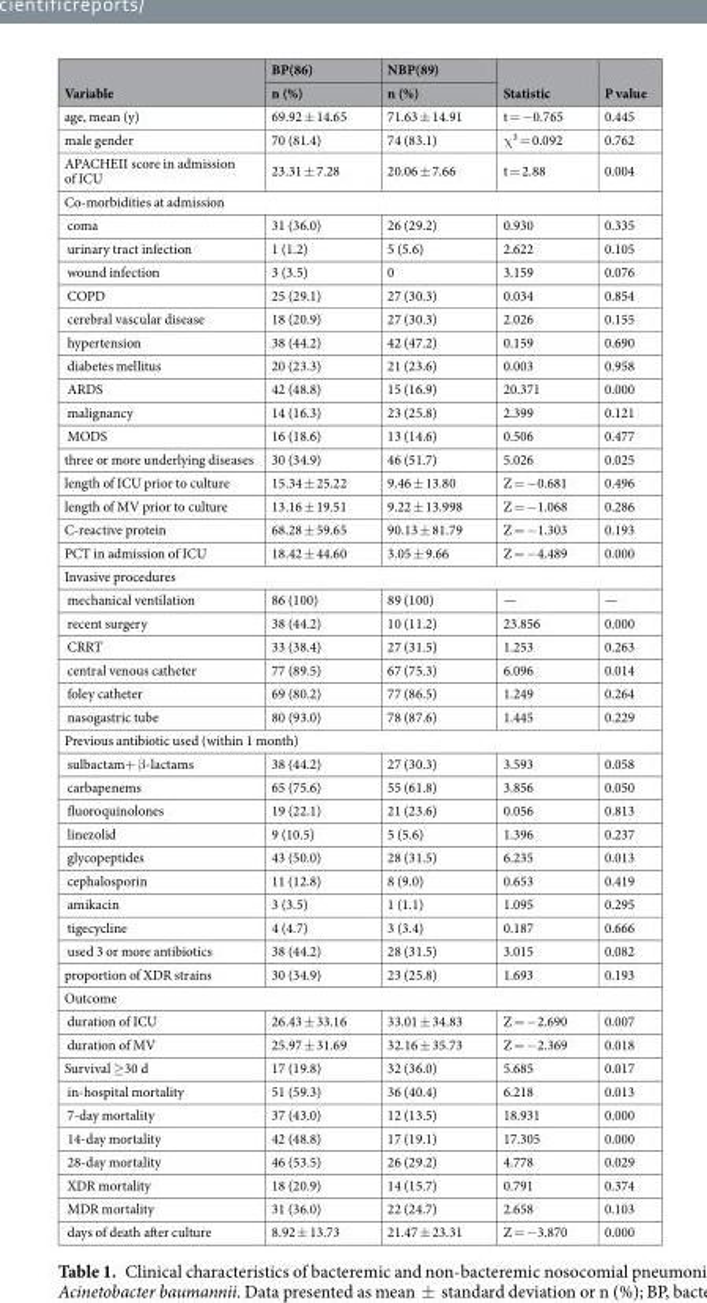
<table><thead><tr><td rowspan="2">Variable</td><td rowspan="2">BP(86) n (%)</td><td rowspan="2">NBP(89) n (%)</td><td rowspan="2">Statistic</td><td rowspan="2">P value</td></tr><tr></tr></thead><tbody><tr><td>age, mean (y)</td><td>69.92 ± 14.65</td><td>71.63 ± 14.91</td><td>t = −0.765</td><td>0.445</td></tr><tr><td>male gender</td><td>70 (81.4)</td><td>74 (83.1)</td><td>χ² = 0.092</td><td>0.762</td></tr><tr><td>APACHEII score in admission of ICU</td><td>23.31 ± 7.28</td><td>20.06 ± 7.66</td><td>t = 2.88</td><td>0.004</td></tr><tr><td colspan="5">Co-morbidities at admission</td></tr><tr><td>coma</td><td>31 (36.0)</td><td>26 (29.2)</td><td>0.930</td><td>0.335</td></tr><tr><td>urinary tract infection</td><td>1 (1.2)</td><td>5 (5.6)</td><td>2.622</td><td>0.105</td></tr><tr><td>wound infection</td><td>3 (3.5)</td><td>0</td><td>3.159</td><td>0.076</td></tr><tr><td>COPD</td><td>25 (29.1)</td><td>27 (30.3)</td><td>0.034</td><td>0.854</td></tr><tr><td>cerebral vascular disease</td><td>18 (20.9)</td><td>27 (30.3)</td><td>2.026</td><td>0.155</td></tr><tr><td>hypertension</td><td>38 (44.2)</td><td>42 (47.2)</td><td>0.159</td><td>0.690</td></tr><tr><td>diabetes mellitus</td><td>20 (23.3)</td><td>21 (23.6)</td><td>0.003</td><td>0.958</td></tr><tr><td>ARDS</td><td>42 (48.8)</td><td>15 (16.9)</td><td>20.371</td><td>0.000</td></tr><tr><td>malignancy</td><td>14 (16.3)</td><td>23 (25.8)</td><td>2.399</td><td>0.121</td></tr><tr><td>MODS</td><td>16 (18.6)</td><td>13 (14.6)</td><td>0.506</td><td>0.477</td></tr><tr><td>three or more underlying diseases</td><td>30 (34.9)</td><td>46 (51.7)</td><td>5.026</td><td>0.025</td></tr><tr><td>length of ICU prior to culture</td><td>15.34 ± 25.22</td><td>9.46 ± 13.80</td><td>Z = −0.681</td><td>0.496</td></tr><tr><td>length of MV prior to culture</td><td>13.16 ± 19.51</td><td>9.22 ± 13.998</td><td>Z = −1.068</td><td>0.286</td></tr><tr><td>C-reactive protein</td><td>68.28 ± 59.65</td><td>90.13 ± 81.79</td><td>Z = −1.303</td><td>0.193</td></tr><tr><td>PCT in admission of ICU</td><td>18.42 ± 44.60</td><td>3.05 ± 9.66</td><td>Z = −4.489</td><td>0.000</td></tr><tr><td colspan="5">Invasive procedures</td></tr><tr><td>mechanical ventilation</td><td>86 (100)</td><td>89 (100)</td><td>—</td><td>—</td></tr><tr><td>recent surgery</td><td>38 (44.2)</td><td>10 (11.2)</td><td>23.856</td><td>0.000</td></tr><tr><td>CRRT</td><td>33 (38.4)</td><td>27 (31.5)</td><td>1.253</td><td>0.263</td></tr><tr><td>central venous catheter</td><td>77 (89.5)</td><td>67 (75.3)</td><td>6.096</td><td>0.014</td></tr><tr><td>foley catheter</td><td>69 (80.2)</td><td>77 (86.5)</td><td>1.249</td><td>0.264</td></tr><tr><td>nasogastric tube</td><td>80 (93.0)</td><td>78 (87.6)</td><td>1.445</td><td>0.229</td></tr><tr><td colspan="5">Previous antibiotic used (within 1 month)</td></tr><tr><td>sulbactam+ β-lactams</td><td>38 (44.2)</td><td>27 (30.3)</td><td>3.593</td><td>0.058</td></tr><tr><td>carbapenems</td><td>65 (75.6)</td><td>55 (61.8)</td><td>3.856</td><td>0.050</td></tr><tr><td>fluoroquinolones</td><td>19 (22.1)</td><td>21 (23.6)</td><td>0.056</td><td>0.813</td></tr><tr><td>linezolid</td><td>9 (10.5)</td><td>5 (5.6)</td><td>1.396</td><td>0.237</td></tr><tr><td>glycopeptides</td><td>43 (50.0)</td><td>28 (31.5)</td><td>6.235</td><td>0.013</td></tr><tr><td>cephalosporin</td><td>11 (12.8)</td><td>8 (9.0)</td><td>0.653</td><td>0.419</td></tr><tr><td>amikacin</td><td>3 (3.5)</td><td>1 (1.1)</td><td>1.095</td><td>0.295</td></tr><tr><td>tigecycline</td><td>4 (4.7)</td><td>3 (3.4)</td><td>0.187</td><td>0.666</td></tr><tr><td>used 3 or more antibiotics</td><td>38 (44.2)</td><td>28 (31.5)</td><td>3.015</td><td>0.082</td></tr><tr><td>proportion of XDR strains</td><td>30 (34.9)</td><td>23 (25.8)</td><td>1.693</td><td>0.193</td></tr><tr><td colspan="5">Outcome</td></tr><tr><td>duration of ICU</td><td>26.43 ± 33.16</td><td>33.01 ± 34.83</td><td>Z = −2.690</td><td>0.007</td></tr><tr><td>duration of MV</td><td>25.97 ± 31.69</td><td>32.16 ± 35.73</td><td>Z = −2.369</td><td>0.018</td></tr><tr><td>Survival ≥30 d</td><td>17 (19.8)</td><td>32 (36.0)</td><td>5.685</td><td>0.017</td></tr><tr><td>in-hospital mortality</td><td>51 (59.3)</td><td>36 (40.4)</td><td>6.218</td><td>0.013</td></tr><tr><td>7-day mortality</td><td>37 (43.0)</td><td>12 (13.5)</td><td>18.931</td><td>0.000</td></tr><tr><td>14-day mortality</td><td>42 (48.8)</td><td>17 (19.1)</td><td>17.305</td><td>0.000</td></tr><tr><td>28-day mortality</td><td>46 (53.5)</td><td>26 (29.2)</td><td>4.778</td><td>0.029</td></tr><tr><td>XDR mortality</td><td>18 (20.9)</td><td>14 (15.7)</td><td>0.791</td><td>0.374</td></tr><tr><td>MDR mortality</td><td>31 (36.0)</td><td>22 (24.7)</td><td>2.658</td><td>0.103</td></tr><tr><td>days of death after culture</td><td>8.92 ± 13.73</td><td>21.47 ± 23.31</td><td>Z = −3.870</td><td>0.000</td></tr></tbody></table>